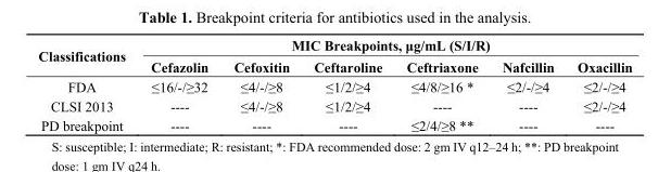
<table><thead><tr><td rowspan="2">Classifications</td><td colspan="6">MIC Breakpoints, μg/mL (S/I/R)</td></tr><tr><td>Cefazolin</td><td>Cefoxitin</td><td>Ceftaroline</td><td>Ceftriaxone</td><td>Nafcillin</td><td>Oxacillin</td></tr></thead><tbody><tr><td>FDA</td><td>≤16/-/≥32</td><td>≤4/-/≥8</td><td>≤1/2/≥4</td><td>≤4/8/≥16 *</td><td>≤2/-/≥4</td><td>≤2/-/≥4</td></tr><tr><td>CLSI 2013</td><td>----</td><td>≤4/-/≥8</td><td>≤1/2/≥4</td><td>----</td><td>----</td><td>≤2/-/≥4</td></tr><tr><td>PD breakpoint</td><td>----</td><td>----</td><td>----</td><td>≤2/4/≥8 **</td><td>----</td><td>----</td></tr></tbody></table>